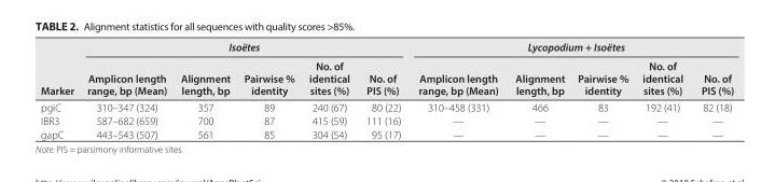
<table><thead><tr><td rowspan="2">Marker</td><td colspan="5">Isoëtes</td><td colspan="5">Lycopodium + Isoëtes</td></tr><tr><td>Amplicon length range, bp (Mean)</td><td>Alignment length, bp</td><td>Pairwise % identity</td><td>No. of identical sites (%)</td><td>No. of PIS (%)</td><td>Amplicon length range, bp (Mean)</td><td>Alignment length, bp</td><td>Pairwise % identity</td><td>No. of identical sites (%)</td><td>No. of PIS (%)</td></tr></thead><tbody><tr><td>pgiC</td><td>310–347 (324)</td><td>357</td><td>89</td><td>240 (67)</td><td>80 (22)</td><td>310–458 (331)</td><td>466</td><td>83</td><td>192 (41)</td><td>82 (18)</td></tr><tr><td>IBR3</td><td>587–682 (659)</td><td>700</td><td>87</td><td>415 (59)</td><td>111 (16)</td><td>—</td><td>—</td><td>—</td><td>—</td><td>—</td></tr><tr><td>gapC</td><td>443–543 (507)</td><td>561</td><td>85</td><td>304 (54)</td><td>95 (17)</td><td>—</td><td>—</td><td>—</td><td>—</td><td>—</td></tr></tbody></table>